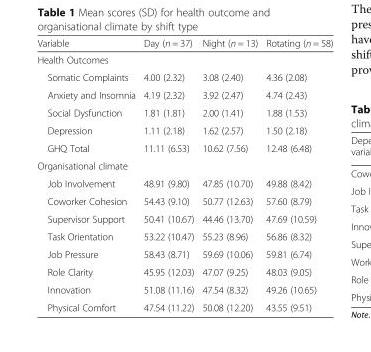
<table><thead><tr><td>Variable</td><td>Day (n = 37)</td><td>Night (n = 13)</td><td>Rotating (n = 58)</td></tr></thead><tbody><tr><td colspan="4">Health Outcomes</td></tr><tr><td>Somatic Complaints</td><td>4.00 (2.32)</td><td>3.08 (2.40)</td><td>4.36 (2.08)</td></tr><tr><td>Anxiety and Insomnia</td><td>4.19 (2.32)</td><td>3.92 (2.47)</td><td>4.74 (2.43)</td></tr><tr><td>Social Dysfunction</td><td>1.81 (1.81)</td><td>2.00 (1.41)</td><td>1.88 (1.53)</td></tr><tr><td>Depression</td><td>1.11 (2.18)</td><td>1.62 (2.57)</td><td>1.50 (2.18)</td></tr><tr><td>GHQ Total</td><td>11.11 (6.53)</td><td>10.62 (7.56)</td><td>12.48 (6.48)</td></tr><tr><td colspan="4">Organisational climate</td></tr><tr><td>Job Involvement</td><td>48.91 (9.80)</td><td>47.85 (10.70)</td><td>49.88 (8.42)</td></tr><tr><td>Coworker Cohesion</td><td>54.43 (9.10)</td><td>50.77 (12.63)</td><td>57.60 (8.79)</td></tr><tr><td>Supervisor Support</td><td>50.41 (10.67)</td><td>44.46 (13.70)</td><td>47.69 (10.59)</td></tr><tr><td>Task Orientation</td><td>53.22 (10.47)</td><td>55.23 (8.96)</td><td>56.86 (8.32)</td></tr><tr><td>Job Pressure</td><td>58.43 (8.71)</td><td>59.69 (10.06)</td><td>59.81 (6.74)</td></tr><tr><td>Role Clarity</td><td>45.95 (12.03)</td><td>47.07 (9.25)</td><td>48.03 (9.05)</td></tr><tr><td>Innovation</td><td>51.08 (11.16)</td><td>47.54 (8.32)</td><td>49.26 (10.65)</td></tr><tr><td>Physical Comfort</td><td>47.54 (11.22)</td><td>50.08 (12.20)</td><td>43.55 (9.51)</td></tr></tbody></table>